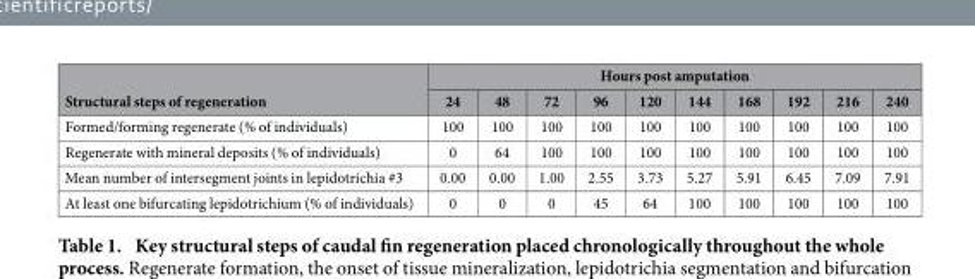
<table><thead><tr><td rowspan="2">Structural steps of regeneration</td><td colspan="10">Hours post amputation</td></tr><tr><td>24</td><td>48</td><td>72</td><td>96</td><td>120</td><td>144</td><td>168</td><td>192</td><td>216</td><td>240</td></tr></thead><tbody><tr><td>Formed/forming regenerate (% of individuals)</td><td>100</td><td>100</td><td>100</td><td>100</td><td>100</td><td>100</td><td>100</td><td>100</td><td>100</td><td>100</td></tr><tr><td>Regenerate with mineral deposits (% of individuals)</td><td>0</td><td>64</td><td>100</td><td>100</td><td>100</td><td>100</td><td>100</td><td>100</td><td>100</td><td>100</td></tr><tr><td>Mean number of intersegment joints in lepidotrichia #3</td><td>0.00</td><td>0.00</td><td>1.00</td><td>2.55</td><td>3.73</td><td>5.27</td><td>5.91</td><td>6.45</td><td>7.09</td><td>7.91</td></tr><tr><td>At least one bifurcating lepidotrichium (% of individuals)</td><td>0</td><td>0</td><td>0</td><td>45</td><td>64</td><td>100</td><td>100</td><td>100</td><td>100</td><td>100</td></tr></tbody></table>